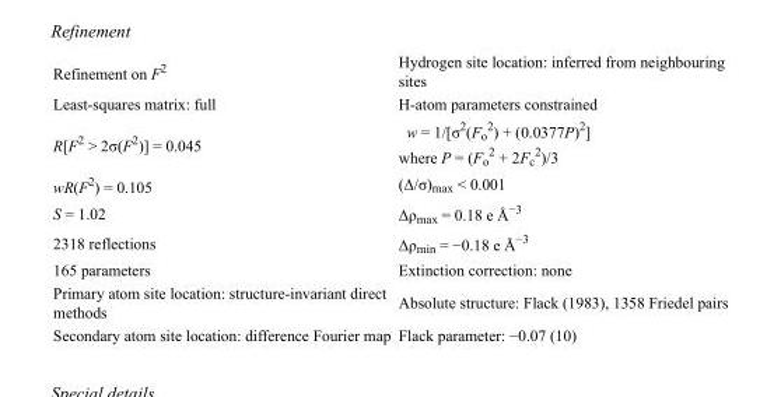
<table><tbody><tr><td>Refinement on F<sup>2</sup></td><td>Hydrogen site location: inferred from neighbouring sites</td></tr><tr><td>Least-squares matrix: full</td><td>H-atom parameters constrained</td></tr><tr><td>R[F<sup>2</sup> &gt; 2σ(F<sup>2</sup>)] = 0.045</td><td>w = 1/[σ<sup>2</sup>(F<sub>o</sub> <sup>2</sup>) + (0.0377P)<sup>2</sup>] where P = (F<sub>o</sub> <sup>2</sup> + 2F<sub>c</sub> <sup>2</sup>)/3</td></tr><tr><td>wR(F<sup>2</sup>) = 0.105</td><td>(Δ/σ)<sub>max</sub> &lt; 0.001</td></tr><tr><td>S = 1.02</td><td>Δρ<sub>max</sub> = 0.18 e Å<sup>−3</sup></td></tr><tr><td>2318 reflections</td><td>Δρ<sub>min</sub> = −0.18 e Å<sup>−3</sup></td></tr><tr><td>165 parameters</td><td>Extinction correction: none</td></tr><tr><td>Primary atom site location: structure-invariant direct methods</td><td>Absolute structure: Flack (1983), 1358 Friedel pairs</td></tr><tr><td>Secondary atom site location: difference Fourier map</td><td>Flack parameter: −0.07 (10)</td></tr></tbody></table>